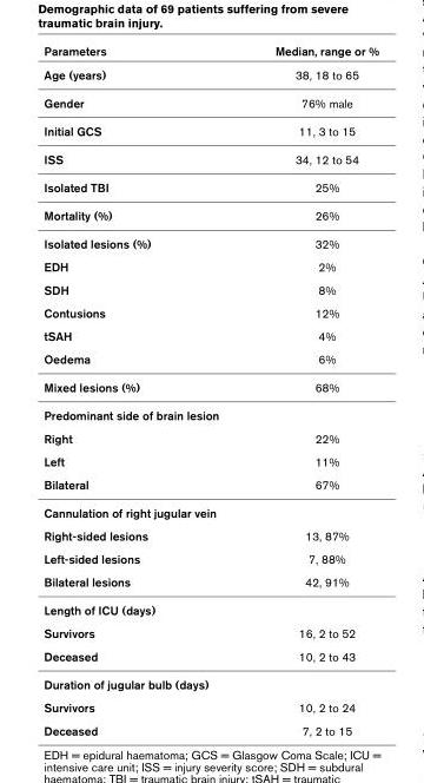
<table><thead><tr><td>Parameters</td><td>Median, range or %</td></tr></thead><tbody><tr><td>Age (years)</td><td>38, 18 to 65</td></tr><tr><td>Gender</td><td>76% male</td></tr><tr><td>Initial GCS</td><td>11, 3 to 15</td></tr><tr><td>ISS</td><td>34, 12 to 54</td></tr><tr><td>Isolated TBI</td><td>25%</td></tr><tr><td>Mortality (%)</td><td>26%</td></tr><tr><td>Isolated lesions (%)</td><td>32%</td></tr><tr><td>EDH</td><td>2%</td></tr><tr><td>SDH</td><td>8%</td></tr><tr><td>Contusions</td><td>12%</td></tr><tr><td>tSAH</td><td>4%</td></tr><tr><td>Oedema</td><td>6%</td></tr><tr><td>Mixed lesions (%)</td><td>68%</td></tr><tr><td colspan="2">Predominant side of brain lesion</td></tr><tr><td>Right</td><td>22%</td></tr><tr><td>Left</td><td>11%</td></tr><tr><td>Bilateral</td><td>67%</td></tr><tr><td colspan="2">Cannulation of right jugular vein</td></tr><tr><td>Right-sided lesions</td><td>13, 87%</td></tr><tr><td>Left-sided lesions</td><td>7, 88%</td></tr><tr><td>Bilateral lesions</td><td>42, 91%</td></tr><tr><td colspan="2">Length of ICU (days)</td></tr><tr><td>Survivors</td><td>16, 2 to 52</td></tr><tr><td>Deceased</td><td>10, 2 to 43</td></tr><tr><td colspan="2">Duration of jugular bulb (days)</td></tr><tr><td>Survivors</td><td>10, 2 to 24</td></tr><tr><td>Deceased</td><td>7, 2 to 15</td></tr></tbody></table>